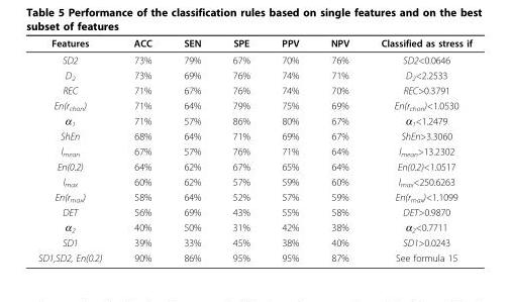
<table><thead><tr><td>Features</td><td>ACC</td><td>SEN</td><td>SPE</td><td>PPV</td><td>NPV</td><td>Classified as stress if</td></tr></thead><tbody><tr><td>SD2</td><td>73%</td><td>79%</td><td>67%</td><td>70%</td><td>76%</td><td>SD2&lt;0.0646</td></tr><tr><td>D<sub>2</sub></td><td>73%</td><td>69%</td><td>76%</td><td>74%</td><td>71%</td><td>D<sub>2</sub>&lt;2.2533</td></tr><tr><td>REC</td><td>71%</td><td>67%</td><td>76%</td><td>74%</td><td>70%</td><td>REC&gt;0.3791</td></tr><tr><td>En(r<sub>chon</sub>)</td><td>71%</td><td>64%</td><td>79%</td><td>75%</td><td>69%</td><td>En(r<sub>chon</sub>)&lt;1.0530</td></tr><tr><td>α<sub>1</sub></td><td>71%</td><td>57%</td><td>86%</td><td>80%</td><td>67%</td><td>α<sub>1</sub>&lt;1.2479</td></tr><tr><td>ShEn</td><td>68%</td><td>64%</td><td>71%</td><td>69%</td><td>67%</td><td>ShEn&gt;3.3060</td></tr><tr><td>l<sub>mean</sub></td><td>67%</td><td>57%</td><td>76%</td><td>71%</td><td>64%</td><td>l<sub>mean</sub>&gt;13.2302</td></tr><tr><td>En(0.2)</td><td>64%</td><td>62%</td><td>67%</td><td>65%</td><td>64%</td><td>En(0.2)&lt;1.0517</td></tr><tr><td>l<sub>max</sub></td><td>60%</td><td>62%</td><td>57%</td><td>59%</td><td>60%</td><td>l<sub>max</sub>&lt;250.6263</td></tr><tr><td>En(r<sub>max</sub>)</td><td>58%</td><td>64%</td><td>52%</td><td>57%</td><td>59%</td><td>En(r<sub>max</sub>)&lt;1.1099</td></tr><tr><td>DET</td><td>56%</td><td>69%</td><td>43%</td><td>55%</td><td>58%</td><td>DET&gt;0.9870</td></tr><tr><td>α<sub>2</sub></td><td>40%</td><td>50%</td><td>31%</td><td>42%</td><td>38%</td><td>α<sub>2</sub>&lt;0.7711</td></tr><tr><td>SD1</td><td>39%</td><td>33%</td><td>45%</td><td>38%</td><td>40%</td><td>SD1&gt;0.0243</td></tr><tr><td>SD1,SD2, En(0.2)</td><td>90%</td><td>86%</td><td>95%</td><td>95%</td><td>87%</td><td>See formula 15</td></tr></tbody></table>